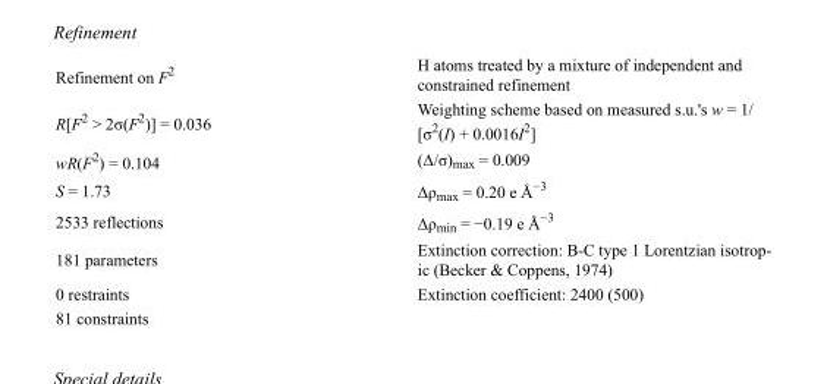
<table><tbody><tr><td>Refinement on F<sup>2</sup></td><td>H atoms treated by a mixture of independent and constrained refinement</td></tr><tr><td>R[F<sup>2</sup> &gt; 2σ(F<sup>2</sup>)] = 0.036</td><td>Weighting scheme based on measured s.u.&#x27;s w = 1/ [σ<sup>2</sup>(I) + 0.0016I<sup>2</sup>]</td></tr><tr><td>wR(F<sup>2</sup>) = 0.104</td><td>(Δ/σ)<sub>max</sub> = 0.009</td></tr><tr><td>S = 1.73</td><td>Δρ<sub>max</sub> = 0.20 e Å<sup>−3</sup></td></tr><tr><td>2533 reflections</td><td>Δρ<sub>min</sub> = −0.19 e Å<sup>−3</sup></td></tr><tr><td>181 parameters</td><td>Extinction correction: B-C type 1 Lorentzian isotrop- ic (Becker &amp; Coppens, 1974)</td></tr><tr><td>0 restraints</td><td>Extinction coefficient: 2400 (500)</td></tr><tr><td>81 constraints</td><td></td></tr></tbody></table>